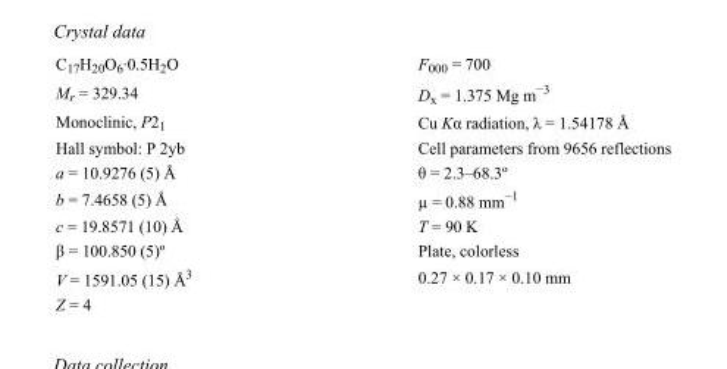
<table><tbody><tr><td>C<sub>17</sub>H<sub>20</sub>O<sub>6</sub>·0.5H<sub>2</sub>O</td><td>F000 = 700</td></tr><tr><td>M<sub>r</sub> = 329.34</td><td>D<sub>x</sub> = 1.375 Mg m<sup>−3</sup></td></tr><tr><td>Monoclinic, P2<sub>1</sub></td><td>Cu Kα radiation, λ = 1.54178 Å</td></tr><tr><td>Hall symbol: P 2yb</td><td>Cell parameters from 9656 reflections</td></tr><tr><td>a = 10.9276 (5) Å</td><td>θ = 2.3–68.3º</td></tr><tr><td>b = 7.4658 (5) Å</td><td>µ = 0.88 mm<sup>−1</sup></td></tr><tr><td>c = 19.8571 (10) Å</td><td>T = 90 K</td></tr><tr><td>β = 100.850 (5)º</td><td>Plate, colorless</td></tr><tr><td>V = 1591.05 (15) Å<sup>3</sup></td><td>0.27 × 0.17 × 0.10 mm</td></tr><tr><td>Z = 4</td><td></td></tr></tbody></table>